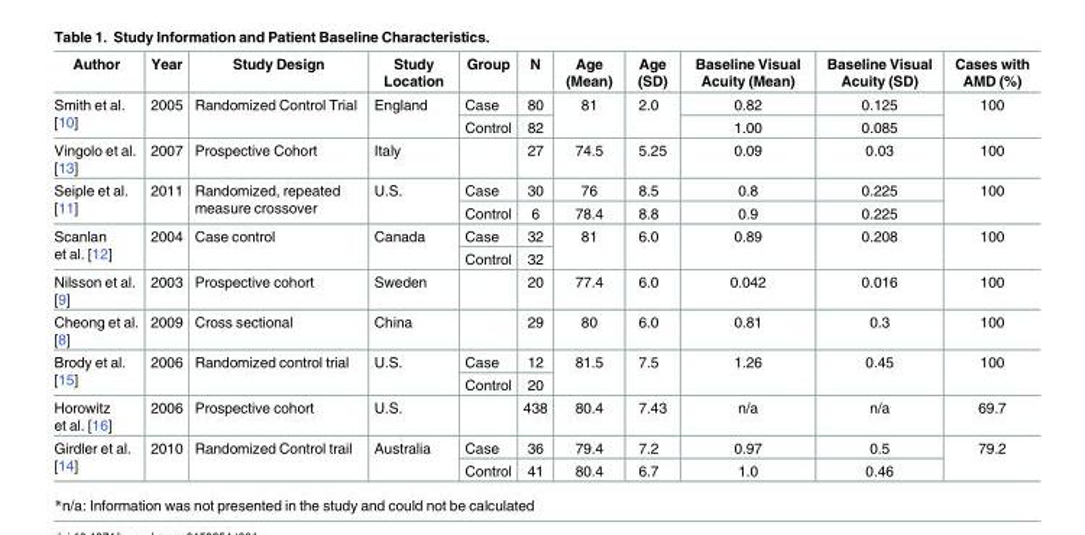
<table><thead><tr><td>Author</td><td>Year</td><td>Study Design</td><td>Study Location</td><td>Group</td><td>N</td><td>Age (Mean)</td><td>Age (SD)</td><td>Baseline Visual Acuity (Mean)</td><td>Baseline Visual Acuity (SD)</td><td>Cases with AMD (%)</td></tr></thead><tbody><tr><td rowspan="2">Smith et al. [10]</td><td rowspan="2">2005</td><td rowspan="2">Randomized Control Trial</td><td rowspan="2">England</td><td>Case</td><td>80</td><td rowspan="2">81</td><td rowspan="2">2.0</td><td>0.82</td><td>0.125</td><td rowspan="2">100</td></tr><tr><td>Control</td><td>82</td><td>1.00</td><td>0.085</td></tr><tr><td>Vingolo et al. [13]</td><td>2007</td><td>Prospective Cohort</td><td>Italy</td><td></td><td>27</td><td>74.5</td><td>5.25</td><td>0.09</td><td>0.03</td><td>100</td></tr><tr><td rowspan="2">Seiple et al. [11]</td><td rowspan="2">2011</td><td rowspan="2">Randomized, repeated measure crossover</td><td rowspan="2">U.S.</td><td>Case</td><td>30</td><td>76</td><td>8.5</td><td>0.8</td><td>0.225</td><td rowspan="2">100</td></tr><tr><td>Control</td><td>6</td><td>78.4</td><td>8.8</td><td>0.9</td><td>0.225</td></tr><tr><td rowspan="2">Scanlan et al. [12]</td><td rowspan="2">2004</td><td rowspan="2">Case control</td><td rowspan="2">Canada</td><td>Case</td><td>32</td><td rowspan="2">81</td><td rowspan="2">6.0</td><td rowspan="2">0.89</td><td rowspan="2">0.208</td><td rowspan="2">100</td></tr><tr><td>Control</td><td>32</td></tr><tr><td>Nilsson et al. [9]</td><td>2003</td><td>Prospective cohort</td><td>Sweden</td><td></td><td>20</td><td>77.4</td><td>6.0</td><td>0.042</td><td>0.016</td><td>100</td></tr><tr><td>Cheong et al. [8]</td><td>2009</td><td>Cross sectional</td><td>China</td><td></td><td>29</td><td>80</td><td>6.0</td><td>0.81</td><td>0.3</td><td>100</td></tr><tr><td rowspan="2">Brody et al. [15]</td><td rowspan="2">2006</td><td rowspan="2">Randomized control trial</td><td rowspan="2">U.S.</td><td>Case</td><td>12</td><td rowspan="2">81.5</td><td rowspan="2">7.5</td><td rowspan="2">1.26</td><td rowspan="2">0.45</td><td rowspan="2">100</td></tr><tr><td>Control</td><td>20</td></tr><tr><td>Horowitz et al. [16]</td><td>2006</td><td>Prospective cohort</td><td>U.S.</td><td></td><td>438</td><td>80.4</td><td>7.43</td><td>n/a</td><td>n/a</td><td>69.7</td></tr><tr><td rowspan="2">Girdler et al. [14]</td><td rowspan="2">2010</td><td rowspan="2">Randomized Control trail</td><td rowspan="2">Australia</td><td>Case</td><td>36</td><td>79.4</td><td>7.2</td><td>0.97</td><td>0.5</td><td rowspan="2">79.2</td></tr><tr><td>Control</td><td>41</td><td>80.4</td><td>6.7</td><td>1.0</td><td>0.46</td></tr></tbody></table>